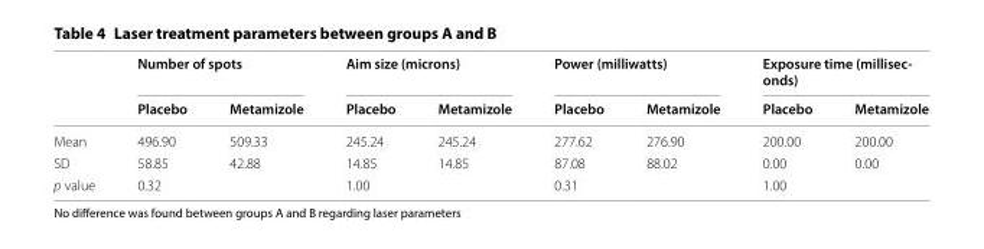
<table><thead><tr><td rowspan="2"></td><td colspan="2">Number of spots</td><td colspan="2">Aim size (microns)</td><td colspan="2">Power (milliwatts)</td><td colspan="2">Exposure time (millisec- onds)</td></tr><tr><td>Placebo</td><td>Metamizole</td><td>Placebo</td><td>Metamizole</td><td>Placebo</td><td>Metamizole</td><td>Placebo</td><td>Metamizole</td></tr></thead><tbody><tr><td>Mean</td><td>496.90</td><td>509.33</td><td>245.24</td><td>245.24</td><td>277.62</td><td>276.90</td><td>200.00</td><td>200.00</td></tr><tr><td>SD</td><td>58.85</td><td>42.88</td><td>14.85</td><td>14.85</td><td>87.08</td><td>88.02</td><td>0.00</td><td>0.00</td></tr><tr><td>p value</td><td colspan="2">0.32</td><td colspan="2">1.00</td><td colspan="2">0.31</td><td colspan="2">1.00</td></tr></tbody></table>